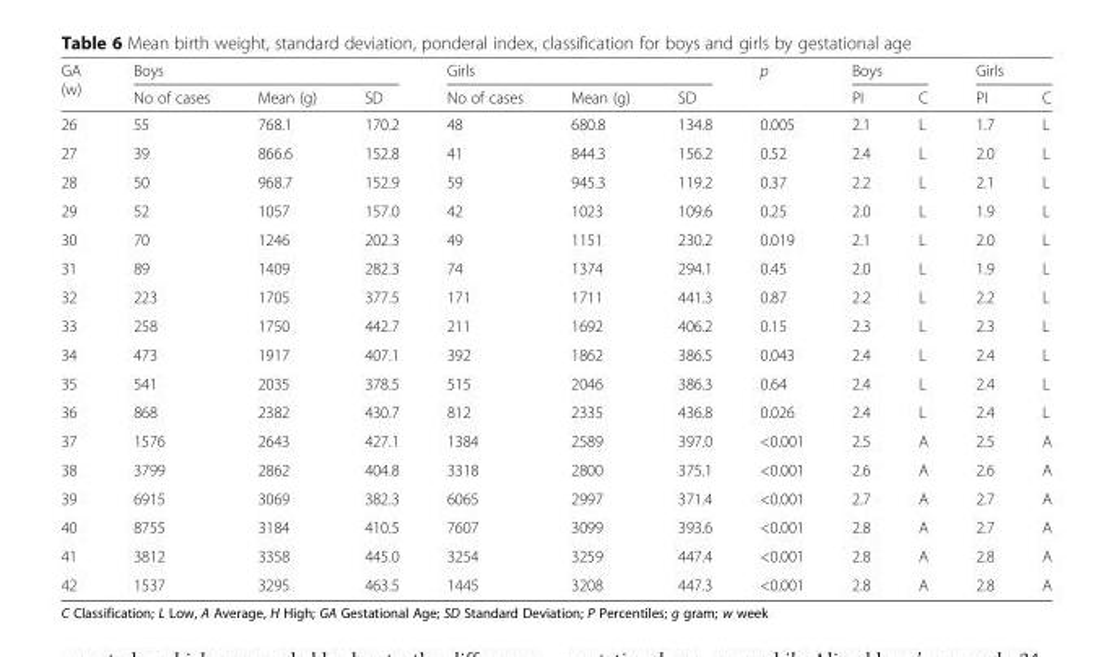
<table><thead><tr><td rowspan="2">GA (w)</td><td colspan="3">Boys</td><td colspan="3">Girls</td><td rowspan="2">p</td><td colspan="2">Boys</td><td colspan="2">Girls</td></tr><tr><td>No of cases</td><td>Mean (g)</td><td>SD</td><td>No of cases</td><td>Mean (g)</td><td>SD</td><td>PI</td><td>C</td><td>PI</td><td>C</td></tr></thead><tbody><tr><td>26</td><td>55</td><td>768.1</td><td>170.2</td><td>48</td><td>680.8</td><td>134.8</td><td>0.005</td><td>2.1</td><td>L</td><td>1.7</td><td>L</td></tr><tr><td>27</td><td>39</td><td>866.6</td><td>152.8</td><td>41</td><td>844.3</td><td>156.2</td><td>0.52</td><td>2.4</td><td>L</td><td>2.0</td><td>L</td></tr><tr><td>28</td><td>50</td><td>968.7</td><td>152.9</td><td>59</td><td>945.3</td><td>119.2</td><td>0.37</td><td>2.2</td><td>L</td><td>2.1</td><td>L</td></tr><tr><td>29</td><td>52</td><td>1057</td><td>157.0</td><td>42</td><td>1023</td><td>109.6</td><td>0.25</td><td>2.0</td><td>L</td><td>1.9</td><td>L</td></tr><tr><td>30</td><td>70</td><td>1246</td><td>202.3</td><td>49</td><td>1151</td><td>230.2</td><td>0.019</td><td>2.1</td><td>L</td><td>2.0</td><td>L</td></tr><tr><td>31</td><td>89</td><td>1409</td><td>282.3</td><td>74</td><td>1374</td><td>294.1</td><td>0.45</td><td>2.0</td><td>L</td><td>1.9</td><td>L</td></tr><tr><td>32</td><td>223</td><td>1705</td><td>377.5</td><td>171</td><td>1711</td><td>441.3</td><td>0.87</td><td>2.2</td><td>L</td><td>2.2</td><td>L</td></tr><tr><td>33</td><td>258</td><td>1750</td><td>442.7</td><td>211</td><td>1692</td><td>406.2</td><td>0.15</td><td>2.3</td><td>L</td><td>2.3</td><td>L</td></tr><tr><td>34</td><td>473</td><td>1917</td><td>407.1</td><td>392</td><td>1862</td><td>386.5</td><td>0.043</td><td>2.4</td><td>L</td><td>2.4</td><td>L</td></tr><tr><td>35</td><td>541</td><td>2035</td><td>378.5</td><td>515</td><td>2046</td><td>386.3</td><td>0.64</td><td>2.4</td><td>L</td><td>2.4</td><td>L</td></tr><tr><td>36</td><td>868</td><td>2382</td><td>430.7</td><td>812</td><td>2335</td><td>436.8</td><td>0.026</td><td>2.4</td><td>L</td><td>2.4</td><td>L</td></tr><tr><td>37</td><td>1576</td><td>2643</td><td>427.1</td><td>1384</td><td>2589</td><td>397.0</td><td>&lt;0.001</td><td>2.5</td><td>A</td><td>2.5</td><td>A</td></tr><tr><td>38</td><td>3799</td><td>2862</td><td>404.8</td><td>3318</td><td>2800</td><td>375.1</td><td>&lt;0.001</td><td>2.6</td><td>A</td><td>2.6</td><td>A</td></tr><tr><td>39</td><td>6915</td><td>3069</td><td>382.3</td><td>6065</td><td>2997</td><td>371.4</td><td>&lt;0.001</td><td>2.7</td><td>A</td><td>2.7</td><td>A</td></tr><tr><td>40</td><td>8755</td><td>3184</td><td>410.5</td><td>7607</td><td>3099</td><td>393.6</td><td>&lt;0.001</td><td>2.8</td><td>A</td><td>2.7</td><td>A</td></tr><tr><td>41</td><td>3812</td><td>3358</td><td>445.0</td><td>3254</td><td>3259</td><td>447.4</td><td>&lt;0.001</td><td>2.8</td><td>A</td><td>2.8</td><td>A</td></tr><tr><td>42</td><td>1537</td><td>3295</td><td>463.5</td><td>1445</td><td>3208</td><td>447.3</td><td>&lt;0.001</td><td>2.8</td><td>A</td><td>2.8</td><td>A</td></tr></tbody></table>